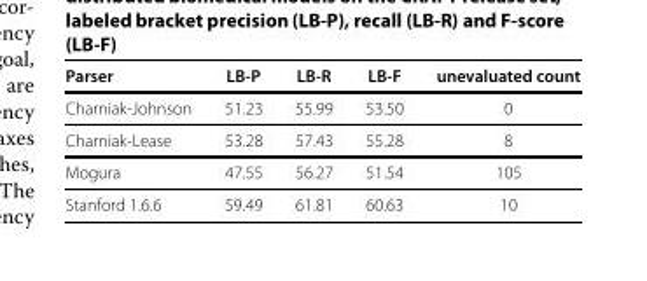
<table><thead><tr><td>Parser</td><td>LB-P</td><td>LB-R</td><td>LB-F</td><td>unevaluated count</td></tr></thead><tbody><tr><td>Charniak-Johnson</td><td>51.23</td><td>55.99</td><td>53.50</td><td>0</td></tr><tr><td>Charniak-Lease</td><td>53.28</td><td>57.43</td><td>55.28</td><td>8</td></tr><tr><td>Mogura</td><td>47.55</td><td>56.27</td><td>51.54</td><td>105</td></tr><tr><td>Stanford 1.6.6</td><td>59.49</td><td>61.81</td><td>60.63</td><td>10</td></tr></tbody></table>